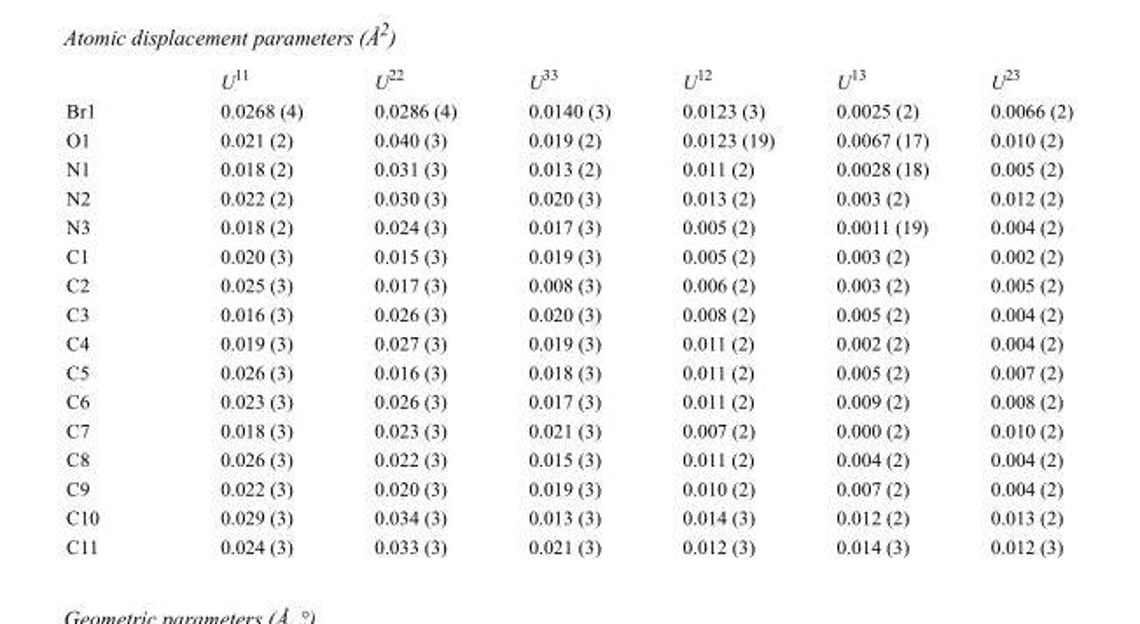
<table><thead><tr><td></td><td>U<sup>11</sup></td><td>U<sup>22</sup></td><td>U<sup>33</sup></td><td>U<sup>12</sup></td><td>U<sup>13</sup></td><td>U<sup>23</sup></td></tr></thead><tbody><tr><td>Br1</td><td>0.0268 (4)</td><td>0.0286 (4)</td><td>0.0140 (3)</td><td>0.0123 (3)</td><td>0.0025 (2)</td><td>0.0066 (2)</td></tr><tr><td>O1</td><td>0.021 (2)</td><td>0.040 (3)</td><td>0.019 (2)</td><td>0.0123 (19)</td><td>0.0067 (17)</td><td>0.010 (2)</td></tr><tr><td>N1</td><td>0.018 (2)</td><td>0.031 (3)</td><td>0.013 (2)</td><td>0.011 (2)</td><td>0.0028 (18)</td><td>0.005 (2)</td></tr><tr><td>N2</td><td>0.022 (2)</td><td>0.030 (3)</td><td>0.020 (3)</td><td>0.013 (2)</td><td>0.003 (2)</td><td>0.012 (2)</td></tr><tr><td>N3</td><td>0.018 (2)</td><td>0.024 (3)</td><td>0.017 (3)</td><td>0.005 (2)</td><td>0.0011 (19)</td><td>0.004 (2)</td></tr><tr><td>C1</td><td>0.020 (3)</td><td>0.015 (3)</td><td>0.019 (3)</td><td>0.005 (2)</td><td>0.003 (2)</td><td>0.002 (2)</td></tr><tr><td>C2</td><td>0.025 (3)</td><td>0.017 (3)</td><td>0.008 (3)</td><td>0.006 (2)</td><td>0.003 (2)</td><td>0.005 (2)</td></tr><tr><td>C3</td><td>0.016 (3)</td><td>0.026 (3)</td><td>0.020 (3)</td><td>0.008 (2)</td><td>0.005 (2)</td><td>0.004 (2)</td></tr><tr><td>C4</td><td>0.019 (3)</td><td>0.027 (3)</td><td>0.019 (3)</td><td>0.011 (2)</td><td>0.002 (2)</td><td>0.004 (2)</td></tr><tr><td>C5</td><td>0.026 (3)</td><td>0.016 (3)</td><td>0.018 (3)</td><td>0.011 (2)</td><td>0.005 (2)</td><td>0.007 (2)</td></tr><tr><td>C6</td><td>0.023 (3)</td><td>0.026 (3)</td><td>0.017 (3)</td><td>0.011 (2)</td><td>0.009 (2)</td><td>0.008 (2)</td></tr><tr><td>C7</td><td>0.018 (3)</td><td>0.023 (3)</td><td>0.021 (3)</td><td>0.007 (2)</td><td>0.000 (2)</td><td>0.010 (2)</td></tr><tr><td>C8</td><td>0.026 (3)</td><td>0.022 (3)</td><td>0.015 (3)</td><td>0.011 (2)</td><td>0.004 (2)</td><td>0.004 (2)</td></tr><tr><td>C9</td><td>0.022 (3)</td><td>0.020 (3)</td><td>0.019 (3)</td><td>0.010 (2)</td><td>0.007 (2)</td><td>0.004 (2)</td></tr><tr><td>C10</td><td>0.029 (3)</td><td>0.034 (3)</td><td>0.013 (3)</td><td>0.014 (3)</td><td>0.012 (2)</td><td>0.013 (2)</td></tr><tr><td>C11</td><td>0.024 (3)</td><td>0.033 (3)</td><td>0.021 (3)</td><td>0.012 (3)</td><td>0.014 (3)</td><td>0.012 (3)</td></tr></tbody></table>